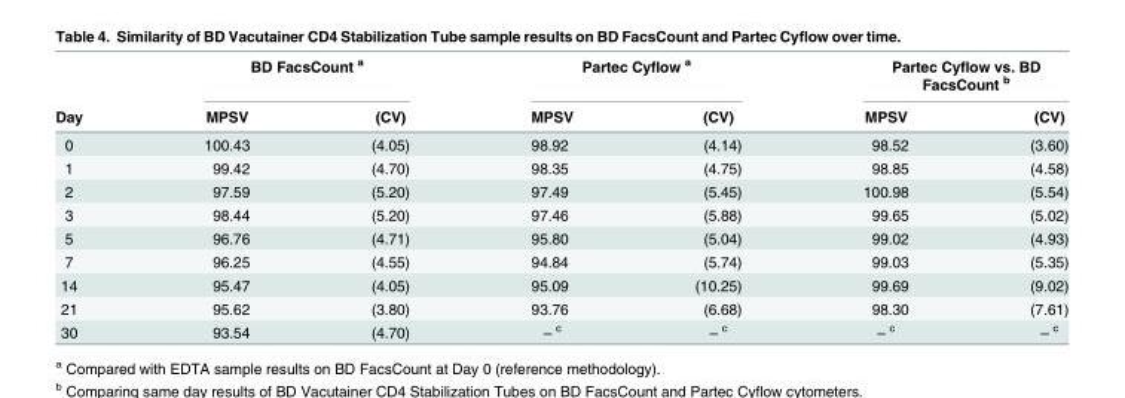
<table><thead><tr><td rowspan="2">Day</td><td colspan="2">BD FacsCount <sup>a</sup></td><td colspan="2">Partec Cyflow <sup>a</sup></td><td colspan="2">Partec Cyflow vs. BD FacsCount <sup>b</sup></td></tr><tr><td>MPSV</td><td>(CV)</td><td>MPSV</td><td>(CV)</td><td>MPSV</td><td>(CV)</td></tr></thead><tbody><tr><td>0</td><td>100.43</td><td>(4.05)</td><td>98.92</td><td>(4.14)</td><td>98.52</td><td>(3.60)</td></tr><tr><td>1</td><td>99.42</td><td>(4.70)</td><td>98.35</td><td>(4.75)</td><td>98.85</td><td>(4.58)</td></tr><tr><td>2</td><td>97.59</td><td>(5.20)</td><td>97.49</td><td>(5.45)</td><td>100.98</td><td>(5.54)</td></tr><tr><td>3</td><td>98.44</td><td>(5.20)</td><td>97.46</td><td>(5.88)</td><td>99.65</td><td>(5.02)</td></tr><tr><td>5</td><td>96.76</td><td>(4.71)</td><td>95.80</td><td>(5.04)</td><td>99.02</td><td>(4.93)</td></tr><tr><td>7</td><td>96.25</td><td>(4.55)</td><td>94.84</td><td>(5.74)</td><td>99.03</td><td>(5.35)</td></tr><tr><td>14</td><td>95.47</td><td>(4.05)</td><td>95.09</td><td>(10.25)</td><td>99.69</td><td>(9.02)</td></tr><tr><td>21</td><td>95.62</td><td>(3.80)</td><td>93.76</td><td>(6.68)</td><td>98.30</td><td>(7.61)</td></tr><tr><td>30</td><td>93.54</td><td>(4.70)</td><td>– <sup>c</sup></td><td>– <sup>c</sup></td><td>– <sup>c</sup></td><td>– <sup>c</sup></td></tr></tbody></table>